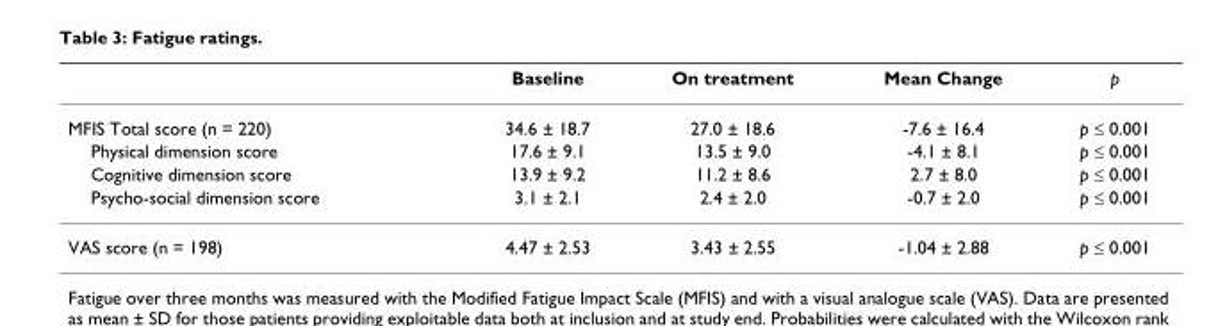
<table><thead><tr><td></td><td>Baseline</td><td>On treatment</td><td>Mean Change</td><td>p</td></tr></thead><tbody><tr><td>MFIS Total score (n = 220)</td><td>34.6 ± 18.7</td><td>27.0 ± 18.6</td><td>-7.6 ± 16.4</td><td>p ≤ 0.001</td></tr><tr><td>Physical dimension score</td><td>17.6 ± 9.1</td><td>13.5 ± 9.0</td><td>-4.1 ± 8.1</td><td>p ≤ 0.001</td></tr><tr><td>Cognitive dimension score</td><td>13.9 ± 9.2</td><td>11.2 ± 8.6</td><td>2.7 ± 8.0</td><td>p ≤ 0.001</td></tr><tr><td>Psycho-social dimension score</td><td>3.1 ± 2.1</td><td>2.4 ± 2.0</td><td>-0.7 ± 2.0</td><td>p ≤ 0.001</td></tr><tr><td>VAS score (n = 198)</td><td>4.47 ± 2.53</td><td>3.43 ± 2.55</td><td>-1.04 ± 2.88</td><td>p ≤ 0.001</td></tr></tbody></table>